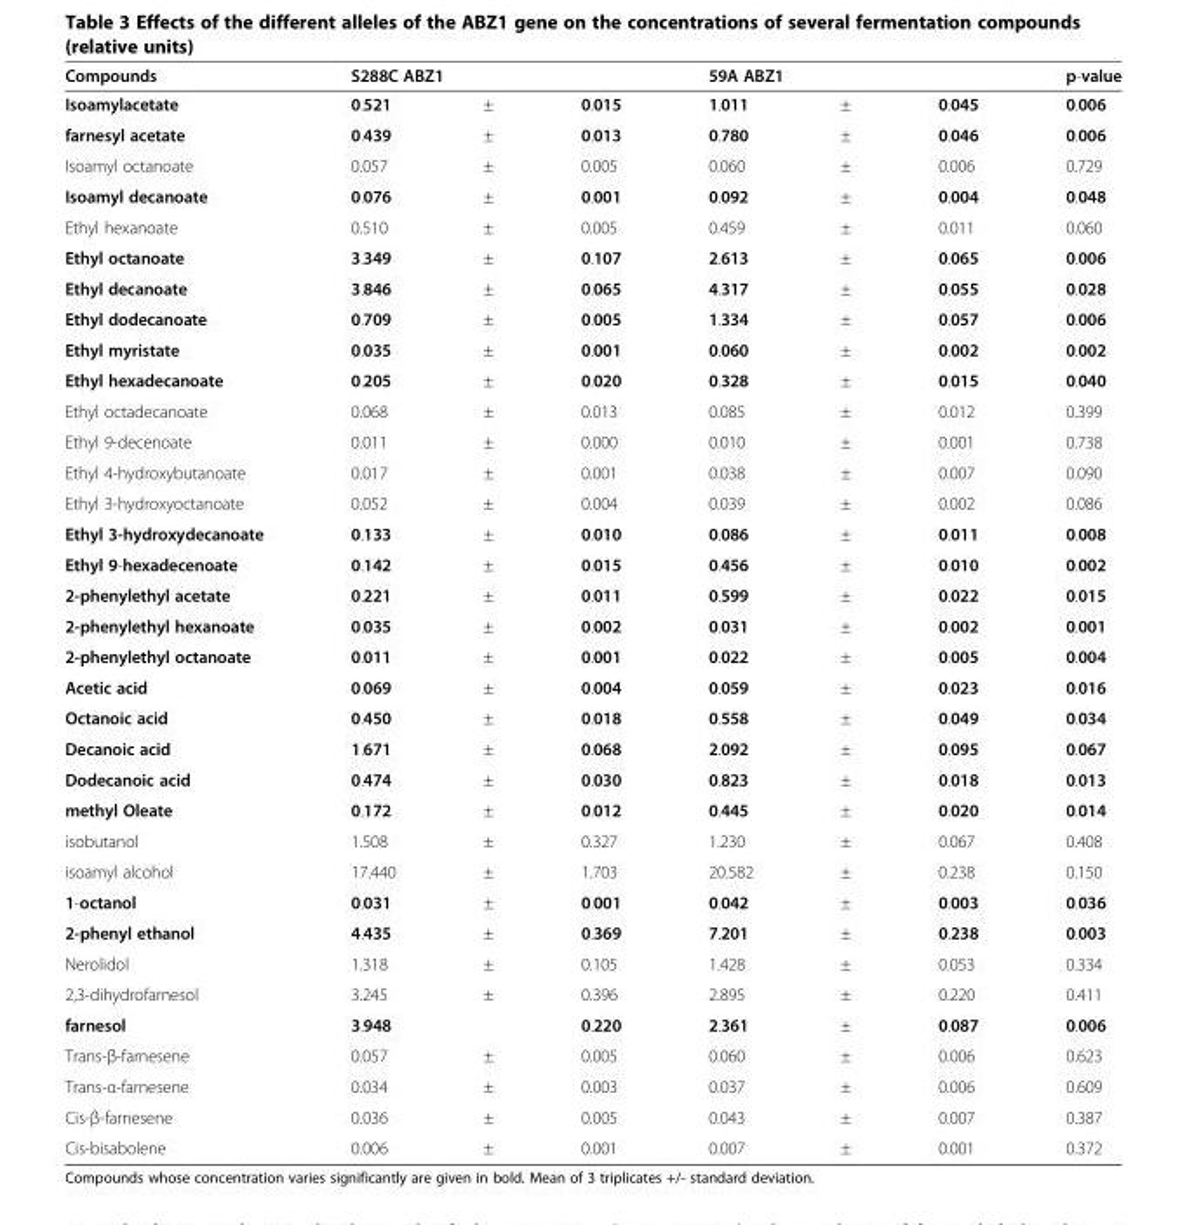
<table><thead><tr><td rowspan="2">Compounds Isoamylacetate</td><td colspan="3">S288C ABZ1</td><td colspan="3">59A ABZ1</td><td rowspan="2">p-value 0.006</td></tr><tr><td>0.521</td><td>±</td><td>0.015</td><td>1.011</td><td>±</td><td>0.045</td></tr></thead><tbody><tr><td>farnesyl acetate</td><td>0.439</td><td>±</td><td>0.013</td><td>0.780</td><td>±</td><td>0.046</td><td>0.006</td></tr><tr><td>Isoamyl octanoate</td><td>0.057</td><td>±</td><td>0.005</td><td>0.060</td><td>±</td><td>0.006</td><td>0.729</td></tr><tr><td>Isoamyl decanoate</td><td>0.076</td><td>±</td><td>0.001</td><td>0.092</td><td>±</td><td>0.004</td><td>0.048</td></tr><tr><td>Ethyl hexanoate</td><td>0.510</td><td>±</td><td>0.005</td><td>0.459</td><td>±</td><td>0.011</td><td>0.060</td></tr><tr><td>Ethyl octanoate</td><td>3.349</td><td>±</td><td>0.107</td><td>2.613</td><td>±</td><td>0.065</td><td>0.006</td></tr><tr><td>Ethyl decanoate</td><td>3.846</td><td>±</td><td>0.065</td><td>4.317</td><td>±</td><td>0.055</td><td>0.028</td></tr><tr><td>Ethyl dodecanoate</td><td>0.709</td><td>±</td><td>0.005</td><td>1.334</td><td>±</td><td>0.057</td><td>0.006</td></tr><tr><td>Ethyl myristate</td><td>0.035</td><td>±</td><td>0.001</td><td>0.060</td><td>±</td><td>0.002</td><td>0.002</td></tr><tr><td>Ethyl hexadecanoate</td><td>0.205</td><td>±</td><td>0.020</td><td>0.328</td><td>±</td><td>0.015</td><td>0.040</td></tr><tr><td>Ethyl octadecanoate</td><td>0.068</td><td>±</td><td>0.013</td><td>0.085</td><td>±</td><td>0.012</td><td>0.399</td></tr><tr><td>Ethyl 9-decenoate</td><td>0.011</td><td>±</td><td>0.000</td><td>0.010</td><td>±</td><td>0.001</td><td>0.738</td></tr><tr><td>Ethyl 4-hydroxybutanoate</td><td>0.017</td><td>±</td><td>0.001</td><td>0.038</td><td>±</td><td>0.007</td><td>0.090</td></tr><tr><td>Ethyl 3-hydroxyoctanoate</td><td>0.052</td><td>±</td><td>0.004</td><td>0.039</td><td>±</td><td>0.002</td><td>0.086</td></tr><tr><td>Ethyl 3-hydroxydecanoate</td><td>0.133</td><td>±</td><td>0.010</td><td>0.086</td><td>±</td><td>0.011</td><td>0.008</td></tr><tr><td>Ethyl 9-hexadecenoate</td><td>0.142</td><td>±</td><td>0.015</td><td>0.456</td><td>±</td><td>0.010</td><td>0.002</td></tr><tr><td>2-phenylethyl acetate</td><td>0.221</td><td>±</td><td>0.011</td><td>0.599</td><td>±</td><td>0.022</td><td>0.015</td></tr><tr><td>2-phenylethyl hexanoate</td><td>0.035</td><td>±</td><td>0.002</td><td>0.031</td><td>±</td><td>0.002</td><td>0.001</td></tr><tr><td>2-phenylethyl octanoate</td><td>0.011</td><td>±</td><td>0.001</td><td>0.022</td><td>±</td><td>0.005</td><td>0.004</td></tr><tr><td>Acetic acid</td><td>0.069</td><td>±</td><td>0.004</td><td>0.059</td><td>±</td><td>0.023</td><td>0.016</td></tr><tr><td>Octanoic acid</td><td>0.450</td><td>±</td><td>0.018</td><td>0.558</td><td>±</td><td>0.049</td><td>0.034</td></tr><tr><td>Decanoic acid</td><td>1.671</td><td>±</td><td>0.068</td><td>2.092</td><td>±</td><td>0.095</td><td>0.067</td></tr><tr><td>Dodecanoic acid</td><td>0.474</td><td>±</td><td>0.030</td><td>0.823</td><td>±</td><td>0.018</td><td>0.013</td></tr><tr><td>methyl Oleate</td><td>0.172</td><td>±</td><td>0.012</td><td>0.445</td><td>±</td><td>0.020</td><td>0.014</td></tr><tr><td>isobutanol</td><td>1.508</td><td>±</td><td>0.327</td><td>1.230</td><td>±</td><td>0.067</td><td>0.408</td></tr><tr><td>isoamyl alcohol</td><td>17.440</td><td>±</td><td>1.703</td><td>20.582</td><td>±</td><td>0.238</td><td>0.150</td></tr><tr><td>1-octanol</td><td>0.031</td><td>±</td><td>0.001</td><td>0.042</td><td>±</td><td>0.003</td><td>0.036</td></tr><tr><td>2-phenyl ethanol</td><td>4.435</td><td>±</td><td>0.369</td><td>7.201</td><td>±</td><td>0.238</td><td>0.003</td></tr><tr><td>Nerolidol</td><td>1.318</td><td>±</td><td>0.105</td><td>1.428</td><td>±</td><td>0.053</td><td>0.334</td></tr><tr><td>2,3-dihydrofarnesol</td><td>3.245</td><td>±</td><td>0.396</td><td>2.895</td><td>±</td><td>0.220</td><td>0.411</td></tr><tr><td>farnesol</td><td>3.948</td><td></td><td>0.220</td><td>2.361</td><td>±</td><td>0.087</td><td>0.006</td></tr><tr><td>Trans-β-farnesene</td><td>0.057</td><td>±</td><td>0.005</td><td>0.060</td><td>±</td><td>0.006</td><td>0.623</td></tr><tr><td>Trans-α-farnesene</td><td>0.034</td><td>±</td><td>0.003</td><td>0.037</td><td>±</td><td>0.006</td><td>0.609</td></tr><tr><td>Cis-β-farnesene</td><td>0.036</td><td>±</td><td>0.005</td><td>0.043</td><td>±</td><td>0.007</td><td>0.387</td></tr><tr><td>Cis-bisabolene</td><td>0.006</td><td>±</td><td>0.001</td><td>0.007</td><td>±</td><td>0.001</td><td>0.372</td></tr></tbody></table>